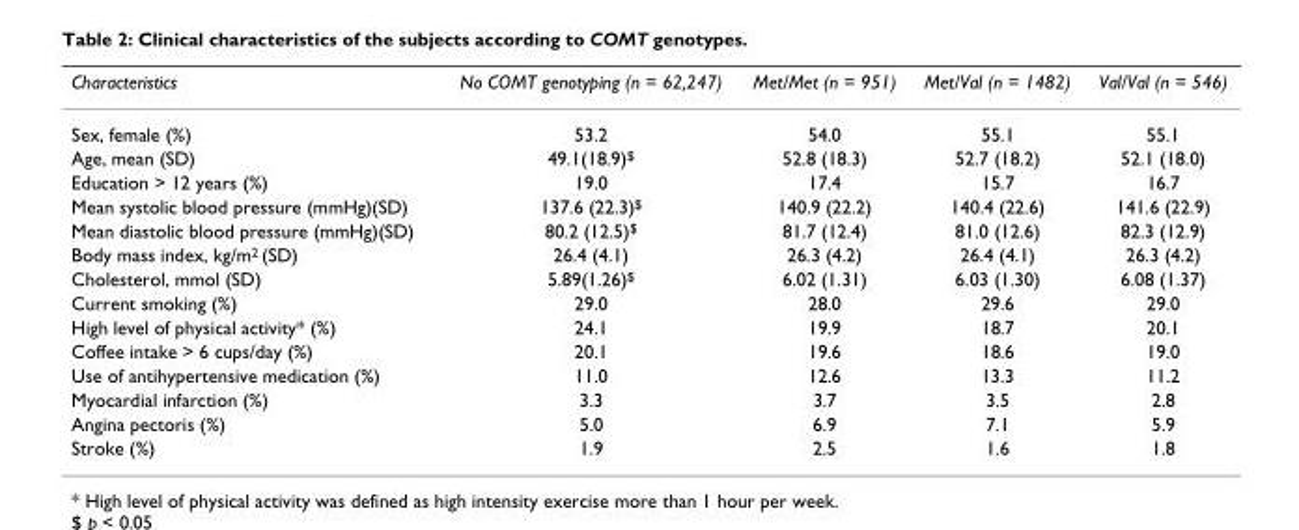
<table><thead><tr><td>Characteristics</td><td>No COMT genotyping (n = 62,247)</td><td>Met/Met (n = 951)</td><td>Met/Val (n = 1482)</td><td>Val/Val (n = 546)</td></tr></thead><tbody><tr><td>Sex, female (%)</td><td>53.2</td><td>54.0</td><td>55.1</td><td>55.1</td></tr><tr><td>Age, mean (SD)</td><td>49.1(18.9)<sup>$</sup></td><td>52.8 (18.3)</td><td>52.7 (18.2)</td><td>52.1 (18.0)</td></tr><tr><td>Education &gt; 12 years (%)</td><td>19.0</td><td>17.4</td><td>15.7</td><td>16.7</td></tr><tr><td>Mean systolic blood pressure (mmHg)(SD)</td><td>137.6 (22.3)<sup>$</sup></td><td>140.9 (22.2)</td><td>140.4 (22.6)</td><td>141.6 (22.9)</td></tr><tr><td>Mean diastolic blood pressure (mmHg)(SD)</td><td>80.2 (12.5)<sup>$</sup></td><td>81.7 (12.4)</td><td>81.0 (12.6)</td><td>82.3 (12.9)</td></tr><tr><td>Body mass index, kg/m<sup>2</sup> (SD)</td><td>26.4 (4.1)</td><td>26.3 (4.2)</td><td>26.4 (4.1)</td><td>26.3 (4.2)</td></tr><tr><td>Cholesterol, mmol (SD)</td><td>5.89(1.26)<sup>$</sup></td><td>6.02 (1.31)</td><td>6.03 (1.30)</td><td>6.08 (1.37)</td></tr><tr><td>Current smoking (%)</td><td>29.0</td><td>28.0</td><td>29.6</td><td>29.0</td></tr><tr><td>High level of physical activity* (%)</td><td>24.1</td><td>19.9</td><td>18.7</td><td>20.1</td></tr><tr><td>Coffee intake &gt; 6 cups/day (%)</td><td>20.1</td><td>19.6</td><td>18.6</td><td>19.0</td></tr><tr><td>Use of antihypertensive medication (%)</td><td>11.0</td><td>12.6</td><td>13.3</td><td>11.2</td></tr><tr><td>Myocardial infarction (%)</td><td>3.3</td><td>3.7</td><td>3.5</td><td>2.8</td></tr><tr><td>Angina pectoris (%)</td><td>5.0</td><td>6.9</td><td>7.1</td><td>5.9</td></tr><tr><td>Stroke (%)</td><td>1.9</td><td>2.5</td><td>1.6</td><td>1.8</td></tr></tbody></table>